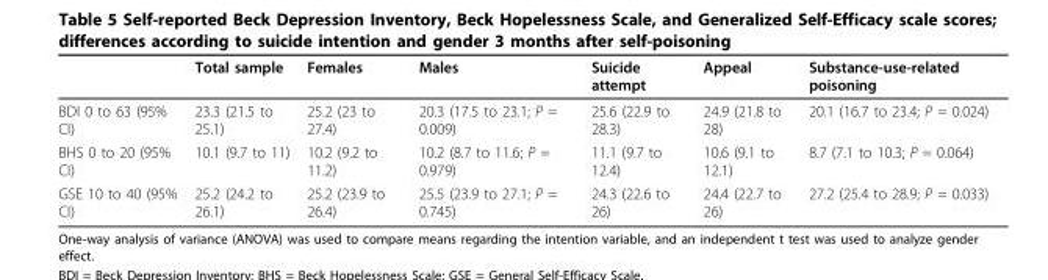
<table><thead><tr><td></td><td>Total sample</td><td>Females</td><td>Males</td><td>Suicide attempt</td><td>Appeal</td><td>Substance-use-related poisoning</td></tr></thead><tbody><tr><td>BDI 0 to 63 (95% CI)</td><td>23.3 (21.5 to 25.1)</td><td>25.2 (23 to 27.4)</td><td>20.3 (17.5 to 23.1; P = 0.009)</td><td>25.6 (22.9 to 28.3)</td><td>24.9 (21.8 to 28)</td><td>20.1 (16.7 to 23.4; P = 0.024)</td></tr><tr><td>BHS 0 to 20 (95% CI)</td><td>10.1 (9.7 to 11)</td><td>10.2 (9.2 to 11.2)</td><td>10.2 (8.7 to 11.6; P = 0.979)</td><td>11.1 (9.7 to 12.4)</td><td>10.6 (9.1 to 12.1)</td><td>8.7 (7.1 to 10.3; P = 0.064)</td></tr><tr><td>GSE 10 to 40 (95% CI)</td><td>25.2 (24.2 to 26.1)</td><td>25.2 (23.9 to 26.4)</td><td>25.5 (23.9 to 27.1; P = 0.745)</td><td>24.3 (22.6 to 26)</td><td>24.4 (22.7 to 26)</td><td>27.2 (25.4 to 28.9; P = 0.033)</td></tr></tbody></table>